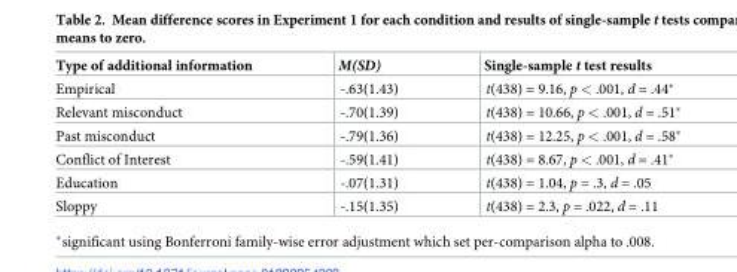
<table><thead><tr><td>Type of additional information</td><td>M(SD)</td><td>Single-sample t test results</td></tr></thead><tbody><tr><td>Empirical</td><td>-.63(1.43)</td><td>t(438) = 9.16, p &lt; .001, d = .44*</td></tr><tr><td>Relevant misconduct</td><td>-.70(1.39)</td><td>t(438) = 10.66, p &lt; .001, d = .51*</td></tr><tr><td>Past misconduct</td><td>-.79(1.36)</td><td>t(438) = 12.25, p &lt; .001, d = .58*</td></tr><tr><td>Conflict of Interest</td><td>-.59(1.41)</td><td>t(438) = 8.67, p &lt; .001, d = .41*</td></tr><tr><td>Education</td><td>-.07(1.31)</td><td>t(438) = 1.04, p = .3, d = .05</td></tr><tr><td>Sloppy</td><td>-.15(1.35)</td><td>t(438) = 2.3, p = .022, d = .11</td></tr></tbody></table>